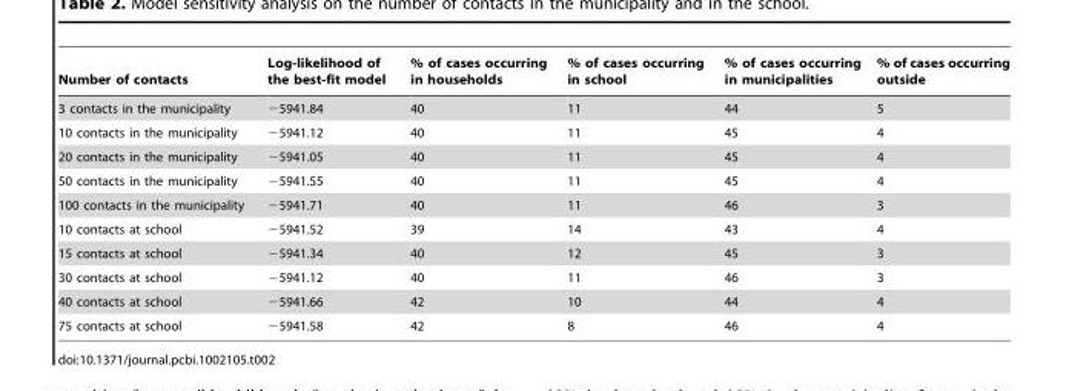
<table><thead><tr><td>Number of contacts</td><td>Log-likelihood of the best-fit model</td><td>% of cases occurring in households</td><td>% of cases occurring in school</td><td>% of cases occurring in municipalities</td><td>% of cases occurring outside</td></tr></thead><tbody><tr><td>3 contacts in the municipality</td><td>−5941.84</td><td>40</td><td>11</td><td>44</td><td>5</td></tr><tr><td>10 contacts in the municipality</td><td>−5941.12</td><td>40</td><td>11</td><td>45</td><td>4</td></tr><tr><td>20 contacts in the municipality</td><td>−5941.05</td><td>40</td><td>11</td><td>45</td><td>4</td></tr><tr><td>50 contacts in the municipality</td><td>−5941.55</td><td>40</td><td>11</td><td>45</td><td>4</td></tr><tr><td>100 contacts in the municipality</td><td>−5941.71</td><td>40</td><td>11</td><td>46</td><td>3</td></tr><tr><td>10 contacts at school</td><td>−5941.52</td><td>39</td><td>14</td><td>43</td><td>4</td></tr><tr><td>15 contacts at school</td><td>−5941.34</td><td>40</td><td>12</td><td>45</td><td>3</td></tr><tr><td>30 contacts at school</td><td>−5941.12</td><td>40</td><td>11</td><td>46</td><td>3</td></tr><tr><td>40 contacts at school</td><td>−5941.66</td><td>42</td><td>10</td><td>44</td><td>4</td></tr><tr><td>75 contacts at school</td><td>−5941.58</td><td>42</td><td>8</td><td>46</td><td>4</td></tr></tbody></table>